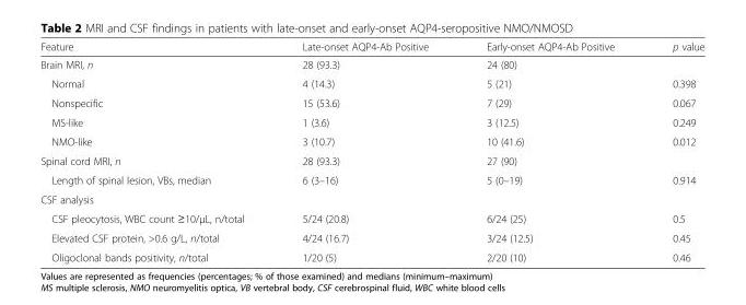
<table><thead><tr><td>Feature</td><td>Late-onset AQP4-Ab Positive</td><td>Early-onset AQP4-Ab Positive</td><td>p value</td></tr></thead><tbody><tr><td>Brain MRI, n</td><td>28 (93.3)</td><td>24 (80)</td><td></td></tr><tr><td>Normal</td><td>4 (14.3)</td><td>5 (21)</td><td>0.398</td></tr><tr><td>Nonspecific</td><td>15 (53.6)</td><td>7 (29)</td><td>0.067</td></tr><tr><td>MS-like</td><td>1 (3.6)</td><td>3 (12.5)</td><td>0.249</td></tr><tr><td>NMO-like</td><td>3 (10.7)</td><td>10 (41.6)</td><td>0.012</td></tr><tr><td>Spinal cord MRI, n</td><td>28 (93.3)</td><td>27 (90)</td><td></td></tr><tr><td>Length of spinal lesion, VBs, median</td><td>6 (3–16)</td><td>5 (0–19)</td><td>0.914</td></tr><tr><td colspan="4">CSF analysis</td></tr><tr><td>CSF pleocytosis, WBC count ≥10/μL, n/total</td><td>5/24 (20.8)</td><td>6/24 (25)</td><td>0.5</td></tr><tr><td>Elevated CSF protein, &gt;0.6 g/L, n/total</td><td>4/24 (16.7)</td><td>3/24 (12.5)</td><td>0.45</td></tr><tr><td>Oligoclonal bands positivity, n/total</td><td>1/20 (5)</td><td>2/20 (10)</td><td>0.46</td></tr></tbody></table>